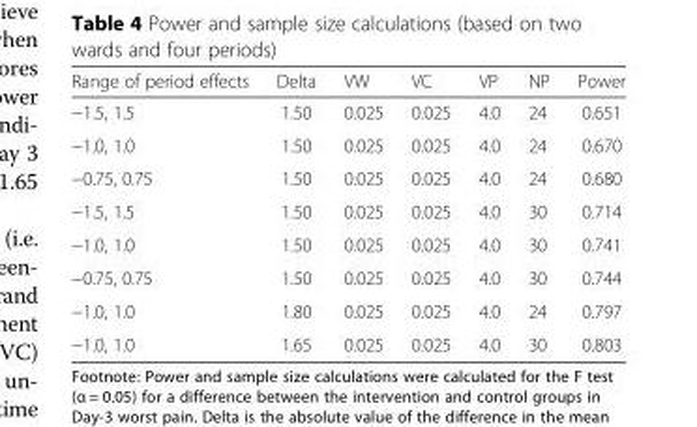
<table><thead><tr><td>Range of period effects</td><td>Delta</td><td>VW</td><td>VC</td><td>VP</td><td>NP</td><td>Power</td></tr></thead><tbody><tr><td>−1.5, 1.5</td><td>1.50</td><td>0.025</td><td>0.025</td><td>4.0</td><td>24</td><td>0.651</td></tr><tr><td>−1.0, 1.0</td><td>1.50</td><td>0.025</td><td>0.025</td><td>4.0</td><td>24</td><td>0.670</td></tr><tr><td>−0.75, 0.75</td><td>1.50</td><td>0.025</td><td>0.025</td><td>4.0</td><td>24</td><td>0.680</td></tr><tr><td>−1.5, 1.5</td><td>1.50</td><td>0.025</td><td>0.025</td><td>4.0</td><td>30</td><td>0.714</td></tr><tr><td>−1.0, 1.0</td><td>1.50</td><td>0.025</td><td>0.025</td><td>4.0</td><td>30</td><td>0.741</td></tr><tr><td>−0.75, 0.75</td><td>1.50</td><td>0.025</td><td>0.025</td><td>4.0</td><td>30</td><td>0.744</td></tr><tr><td>−1.0, 1.0</td><td>1.80</td><td>0.025</td><td>0.025</td><td>4.0</td><td>24</td><td>0.797</td></tr><tr><td>−1.0, 1.0</td><td>1.65</td><td>0.025</td><td>0.025</td><td>4.0</td><td>30</td><td>0.803</td></tr></tbody></table>